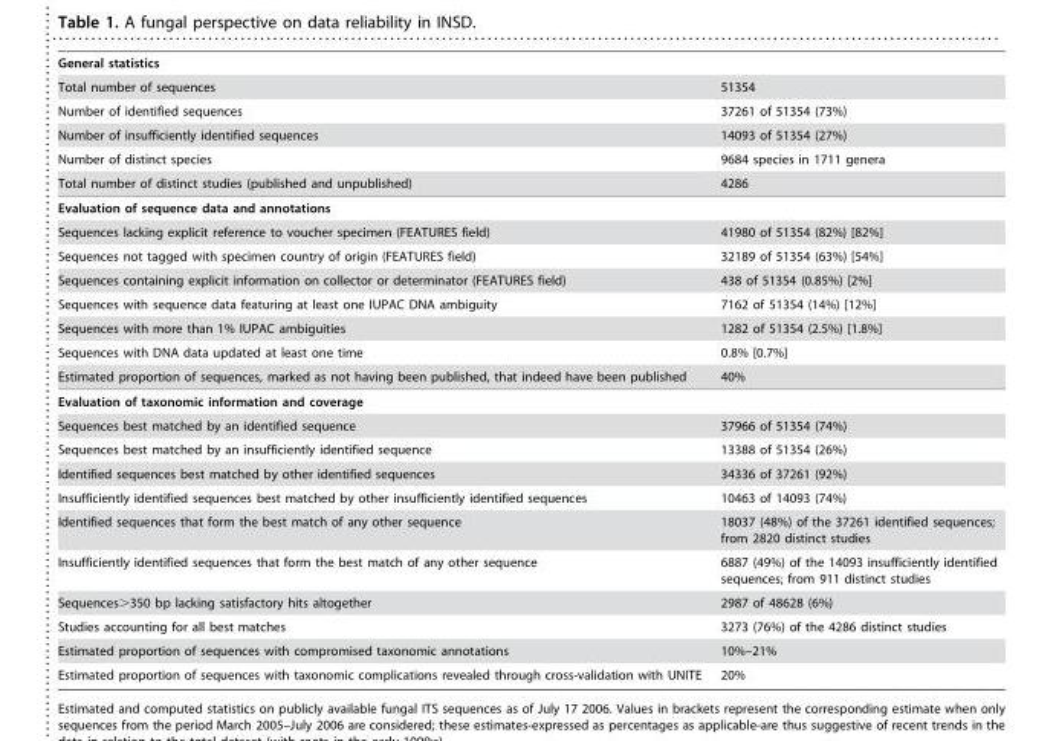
<table><thead><tr><td colspan="2">General statistics</td></tr><tr><td>Total number of sequences</td><td>51354</td></tr></thead><tbody><tr><td>Number of identified sequences</td><td>37261 of 51354 (73%)</td></tr><tr><td>Number of insufficiently identified sequences</td><td>14093 of 51354 (27%)</td></tr><tr><td>Number of distinct species</td><td>9684 species in 1711 genera</td></tr><tr><td>Total number of distinct studies (published and unpublished)</td><td>4286</td></tr><tr><td colspan="2">Evaluation of sequence data and annotations</td></tr><tr><td>Sequences lacking explicit reference to voucher specimen (FEATURES field)</td><td>41980 of 51354 (82%) [82%]</td></tr><tr><td>Sequences not tagged with specimen country of origin (FEATURES field)</td><td>32189 of 51354 (63%) [54%]</td></tr><tr><td>Sequences containing explicit information on collector or determinator (FEATURES field)</td><td>438 of 51354 (0.85%) [2%]</td></tr><tr><td>Sequences with sequence data featuring at least one IUPAC DNA ambiguity</td><td>7162 of 51354 (14%) [12%]</td></tr><tr><td>Sequences with more than 1% IUPAC ambiguities</td><td>1282 of 51354 (2.5%) [1.8%]</td></tr><tr><td>Sequences with DNA data updated at least one time</td><td>0.8% [0.7%]</td></tr><tr><td>Estimated proportion of sequences, marked as not having been published, that indeed have been published</td><td>40%</td></tr><tr><td colspan="2">Evaluation of taxonomic information and coverage</td></tr><tr><td>Sequences best matched by an identified sequence</td><td>37966 of 51354 (74%)</td></tr><tr><td>Sequences best matched by an insufficiently identified sequence</td><td>13388 of 51354 (26%)</td></tr><tr><td>Identified sequences best matched by other identified sequences</td><td>34336 of 37261 (92%)</td></tr><tr><td>Insufficiently identified sequences best matched by other insufficiently identified sequences</td><td>10463 of 14093 (74%)</td></tr><tr><td>Identified sequences that form the best match of any other sequence</td><td>18037 (48%) of the 37261 identified sequences; from 2820 distinct studies</td></tr><tr><td>Insufficiently identified sequences that form the best match of any other sequence</td><td>6887 (49%) of the 14093 insufficiently identified sequences; from 911 distinct studies</td></tr><tr><td>Sequences&gt;350 bp lacking satisfactory hits altogether</td><td>2987 of 48628 (6%)</td></tr><tr><td>Studies accounting for all best matches</td><td>3273 (76%) of the 4286 distinct studies</td></tr><tr><td>Estimated proportion of sequences with compromised taxonomic annotations</td><td>10%–21%</td></tr><tr><td>Estimated proportion of sequences with taxonomic complications revealed through cross-validation with UNITE</td><td>20%</td></tr></tbody></table>